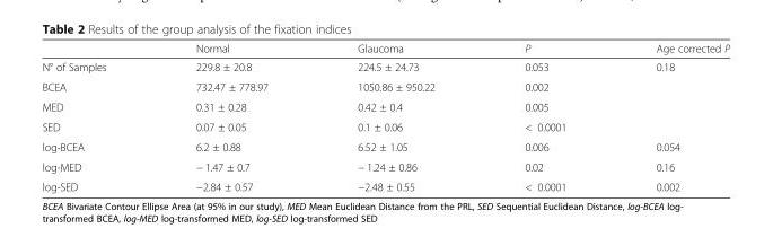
<table><thead><tr><td></td><td>Normal</td><td>Glaucoma</td><td>P</td><td>Age corrected P</td></tr></thead><tbody><tr><td>N° of Samples</td><td>229.8 ± 20.8</td><td>224.5 ± 24.73</td><td>0.053</td><td>0.18</td></tr><tr><td>BCEA</td><td>732.47 ± 778.97</td><td>1050.86 ± 950.22</td><td>0.002</td><td></td></tr><tr><td>MED</td><td>0.31 ± 0.28</td><td>0.42 ± 0.4</td><td>0.005</td><td></td></tr><tr><td>SED</td><td>0.07 ± 0.05</td><td>0.1 ± 0.06</td><td>&lt; 0.0001</td><td></td></tr><tr><td>log-BCEA</td><td>6.2 ± 0.88</td><td>6.52 ± 1.05</td><td>0.006</td><td>0.054</td></tr><tr><td>log-MED</td><td>− 1.47 ± 0.7</td><td>− 1.24 ± 0.86</td><td>0.02</td><td>0.16</td></tr><tr><td>log-SED</td><td>−2.84 ± 0.57</td><td>−2.48 ± 0.55</td><td>&lt; 0.0001</td><td>0.002</td></tr></tbody></table>